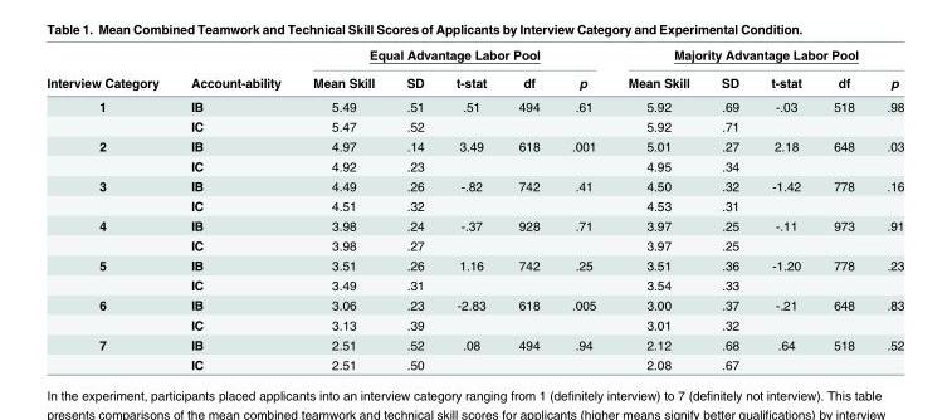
<table><thead><tr><td rowspan="2">Interview Category</td><td rowspan="2">Account-ability</td><td colspan="5">Equal Advantage Labor Pool</td><td colspan="5">Majority Advantage Labor Pool</td></tr><tr><td>Mean Skill</td><td>SD</td><td>t-stat</td><td>df</td><td>p</td><td>Mean Skill</td><td>SD</td><td>t-stat</td><td>df</td><td>p</td></tr></thead><tbody><tr><td rowspan="2">1</td><td>IB</td><td>5.49</td><td>.51</td><td>.51</td><td>494</td><td>.61</td><td>5.92</td><td>.69</td><td>-.03</td><td>518</td><td>.98</td></tr><tr><td>IC</td><td>5.47</td><td>.52</td><td></td><td></td><td></td><td>5.92</td><td>.71</td><td></td><td></td><td></td></tr><tr><td rowspan="2">2</td><td>IB</td><td>4.97</td><td>.14</td><td>3.49</td><td>618</td><td>.001</td><td>5.01</td><td>.27</td><td>2.18</td><td>648</td><td>.03</td></tr><tr><td>IC</td><td>4.92</td><td>.23</td><td></td><td></td><td></td><td>4.95</td><td>.34</td><td></td><td></td><td></td></tr><tr><td rowspan="2">3</td><td>IB</td><td>4.49</td><td>.26</td><td>-.82</td><td>742</td><td>.41</td><td>4.50</td><td>.32</td><td>-1.42</td><td>778</td><td>.16</td></tr><tr><td>IC</td><td>4.51</td><td>.32</td><td></td><td></td><td></td><td>4.53</td><td>.31</td><td></td><td></td><td></td></tr><tr><td rowspan="2">4</td><td>IB</td><td>3.98</td><td>.24</td><td>-.37</td><td>928</td><td>.71</td><td>3.97</td><td>.25</td><td>-.11</td><td>973</td><td>.91</td></tr><tr><td>IC</td><td>3.98</td><td>.27</td><td></td><td></td><td></td><td>3.97</td><td>.25</td><td></td><td></td><td></td></tr><tr><td rowspan="2">5</td><td>IB</td><td>3.51</td><td>.26</td><td>1.16</td><td>742</td><td>.25</td><td>3.51</td><td>.36</td><td>-1.20</td><td>778</td><td>.23</td></tr><tr><td>IC</td><td>3.49</td><td>.31</td><td></td><td></td><td></td><td>3.54</td><td>.33</td><td></td><td></td><td></td></tr><tr><td rowspan="2">6</td><td>IB</td><td>3.06</td><td>.23</td><td>-2.83</td><td>618</td><td>.005</td><td>3.00</td><td>.37</td><td>-.21</td><td>648</td><td>.83</td></tr><tr><td>IC</td><td>3.13</td><td>.39</td><td></td><td></td><td></td><td>3.01</td><td>.32</td><td></td><td></td><td></td></tr><tr><td rowspan="2">7</td><td>IB</td><td>2.51</td><td>.52</td><td>.08</td><td>494</td><td>.94</td><td>2.12</td><td>.68</td><td>.64</td><td>518</td><td>.52</td></tr><tr><td>IC</td><td>2.51</td><td>.50</td><td></td><td></td><td></td><td>2.08</td><td>.67</td><td></td><td></td><td></td></tr></tbody></table>